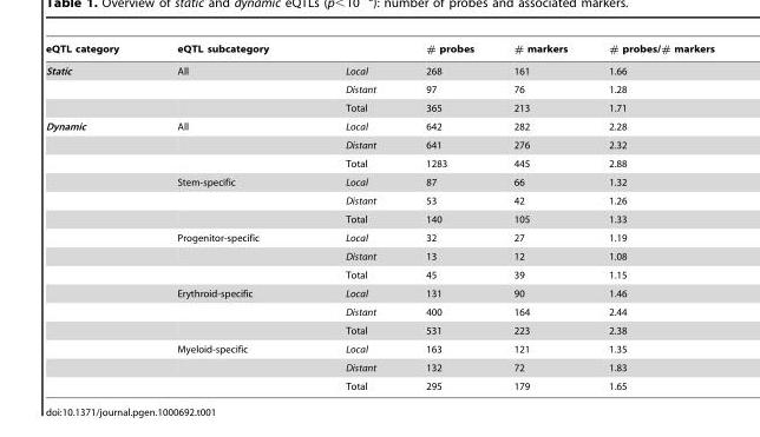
<table><thead><tr><td>eQTL category</td><td>eQTL subcategory</td><td></td><td># probes</td><td># markers</td><td># probes/# markers</td></tr></thead><tbody><tr><td rowspan="3">Static</td><td>All</td><td>Local</td><td>268</td><td>161</td><td>1.66</td></tr><tr><td></td><td>Distant</td><td>97</td><td>76</td><td>1.28</td></tr><tr><td></td><td>Total</td><td>365</td><td>213</td><td>1.71</td></tr><tr><td rowspan="15">Dynamic</td><td>All</td><td>Local</td><td>642</td><td>282</td><td>2.28</td></tr><tr><td></td><td>Distant</td><td>641</td><td>276</td><td>2.32</td></tr><tr><td></td><td>Total</td><td>1283</td><td>445</td><td>2.88</td></tr><tr><td>Stem-specific</td><td>Local</td><td>87</td><td>66</td><td>1.32</td></tr><tr><td></td><td>Distant</td><td>53</td><td>42</td><td>1.26</td></tr><tr><td></td><td>Total</td><td>140</td><td>105</td><td>1.33</td></tr><tr><td>Progenitor-specific</td><td>Local</td><td>32</td><td>27</td><td>1.19</td></tr><tr><td></td><td>Distant</td><td>13</td><td>12</td><td>1.08</td></tr><tr><td></td><td>Total</td><td>45</td><td>39</td><td>1.15</td></tr><tr><td>Erythroid-specific</td><td>Local</td><td>131</td><td>90</td><td>1.46</td></tr><tr><td></td><td>Distant</td><td>400</td><td>164</td><td>2.44</td></tr><tr><td></td><td>Total</td><td>531</td><td>223</td><td>2.38</td></tr><tr><td>Myeloid-specific</td><td>Local</td><td>163</td><td>121</td><td>1.35</td></tr><tr><td></td><td>Distant</td><td>132</td><td>72</td><td>1.83</td></tr><tr><td></td><td>Total</td><td>295</td><td>179</td><td>1.65</td></tr></tbody></table>